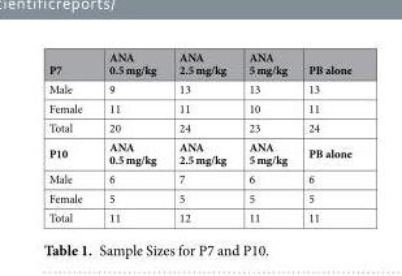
<table><thead><tr><td>P7</td><td>ANA 0.5 mg/kg</td><td>ANA 2.5 mg/kg</td><td>ANA 5 mg/kg</td><td>PB alone</td></tr></thead><tbody><tr><td>Male</td><td>9</td><td>13</td><td>13</td><td>13</td></tr><tr><td>Female</td><td>11</td><td>11</td><td>10</td><td>11</td></tr><tr><td>Total</td><td>20</td><td>24</td><td>23</td><td>24</td></tr><tr><td>P10</td><td>ANA 0.5 mg/kg</td><td>ANA 2.5 mg/kg</td><td>ANA 5 mg/kg</td><td>PB alone</td></tr><tr><td>Male</td><td>6</td><td>7</td><td>6</td><td>6</td></tr><tr><td>Female</td><td>5</td><td>5</td><td>5</td><td>5</td></tr><tr><td>Total</td><td>11</td><td>12</td><td>11</td><td>11</td></tr></tbody></table>